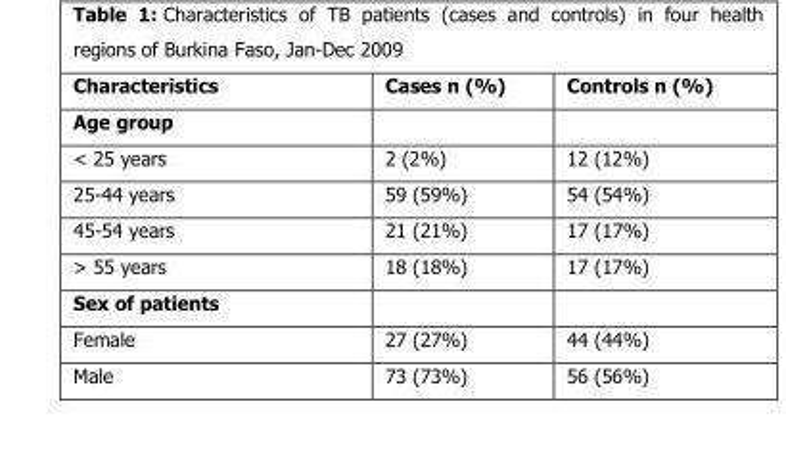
<table><thead><tr><td>Characteristics</td><td>Cases n (%)</td><td>Controls n (%)</td></tr></thead><tbody><tr><td colspan="3">Age group</td></tr><tr><td>&lt; 25 years</td><td>2 (2%)</td><td>12 (12%)</td></tr><tr><td>25-44 years</td><td>59 (59%)</td><td>54 (54%)</td></tr><tr><td>45-54 years</td><td>21 (21%)</td><td>17 (17%)</td></tr><tr><td>&gt; 55 years</td><td>18 (18%)</td><td>17 (17%)</td></tr><tr><td colspan="3">Sex of patients</td></tr><tr><td>Female</td><td>27 (27%)</td><td>44 (44%)</td></tr><tr><td>Male</td><td>73 (73%)</td><td>56 (56%)</td></tr></tbody></table>